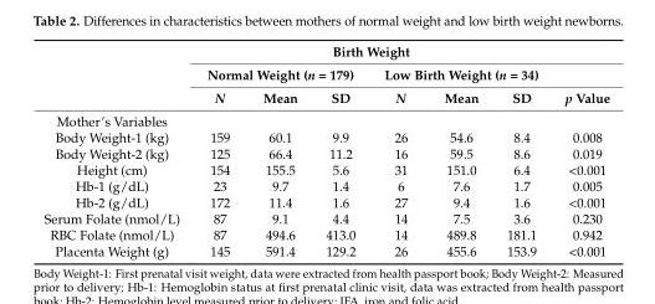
<table><thead><tr><td rowspan="3"></td><td colspan="6">Birth Weight</td><td rowspan="3">p Value</td></tr><tr><td colspan="3">Normal Weight (n = 179)</td><td colspan="3">Low Birth Weight (n = 34)</td></tr><tr><td>N</td><td>Mean</td><td>SD</td><td>N</td><td>Mean</td><td>SD</td></tr></thead><tbody><tr><td colspan="8">Mother’s Variables</td></tr><tr><td>Body Weight-1 (kg)</td><td>159</td><td>60.1</td><td>9.9</td><td>26</td><td>54.6</td><td>8.4</td><td>0.008</td></tr><tr><td>Body Weight-2 (kg)</td><td>125</td><td>66.4</td><td>11.2</td><td>16</td><td>59.5</td><td>8.6</td><td>0.019</td></tr><tr><td>Height (cm)</td><td>154</td><td>155.5</td><td>5.6</td><td>31</td><td>151.0</td><td>6.4</td><td>&lt;0.001</td></tr><tr><td>Hb-1 (g/dL)</td><td>23</td><td>9.7</td><td>1.4</td><td>6</td><td>7.6</td><td>1.7</td><td>0.005</td></tr><tr><td>Hb-2 (g/dL)</td><td>172</td><td>11.4</td><td>1.6</td><td>27</td><td>9.4</td><td>1.6</td><td>&lt;0.001</td></tr><tr><td>Serum Folate (nmol/L)</td><td>87</td><td>9.1</td><td>4.4</td><td>14</td><td>7.5</td><td>3.6</td><td>0.230</td></tr><tr><td>RBC Folate (nmol/L)</td><td>87</td><td>494.6</td><td>413.0</td><td>14</td><td>489.8</td><td>181.1</td><td>0.942</td></tr><tr><td>Placenta Weight (g)</td><td>145</td><td>591.4</td><td>129.2</td><td>26</td><td>455.6</td><td>153.9</td><td>&lt;0.001</td></tr></tbody></table>